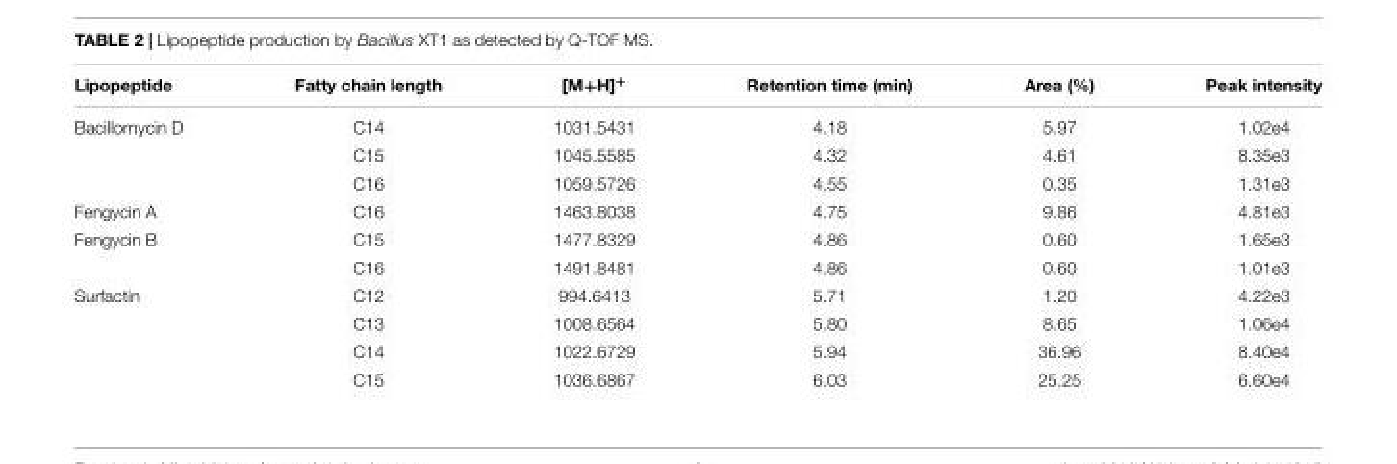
<table><thead><tr><td>Lipopeptide</td><td>Fatty chain length</td><td>[M+H]<sup>+</sup></td><td>Retention time (min)</td><td>Area (%)</td><td>Peak intensity</td></tr></thead><tbody><tr><td rowspan="3">Bacillomycin D</td><td>C14</td><td>1031.5431</td><td>4.18</td><td>5.97</td><td>1.02e4</td></tr><tr><td>C15</td><td>1045.5585</td><td>4.32</td><td>4.61</td><td>8.35e3</td></tr><tr><td>C16</td><td>1059.5726</td><td>4.55</td><td>0.35</td><td>1.31e3</td></tr><tr><td>Fengycin A</td><td>C16</td><td>1463.8038</td><td>4.75</td><td>9.86</td><td>4.81e3</td></tr><tr><td rowspan="2">Fengycin B</td><td>C15</td><td>1477.8329</td><td>4.86</td><td>0.60</td><td>1.65e3</td></tr><tr><td>C16</td><td>1491.8481</td><td>4.86</td><td>0.60</td><td>1.01e3</td></tr><tr><td rowspan="4">Surfactin</td><td>C12</td><td>994.6413</td><td>5.71</td><td>1.20</td><td>4.22e3</td></tr><tr><td>C13</td><td>1008.6564</td><td>5.80</td><td>8.65</td><td>1.06e4</td></tr><tr><td>C14</td><td>1022.6729</td><td>5.94</td><td>36.96</td><td>8.40e4</td></tr><tr><td>C15</td><td>1036.6867</td><td>6.03</td><td>25.25</td><td>6.60e4</td></tr></tbody></table>